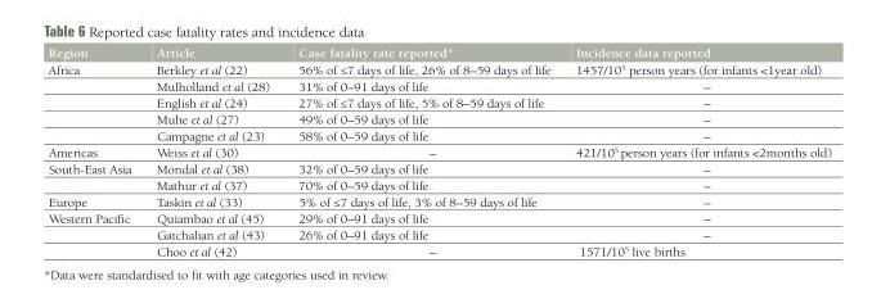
<table><thead><tr><td>Region</td><td>Article</td><td>Case fatality rate reported*</td><td>Incidence data reported</td></tr></thead><tbody><tr><td rowspan="5">Africa</td><td>Berkley et al (22)</td><td>56% of ≤7 days of life, 26% of 8–59 days of life</td><td>1457/10<sup>5</sup> person years (for infants &lt;1year old)</td></tr><tr><td>Mulholland et al (28)</td><td>31% of 0–91 days of life</td><td>–</td></tr><tr><td>English et al (24)</td><td>27% of ≤7 days of life, 5% of 8–59 days of life</td><td>–</td></tr><tr><td>Muhe et al (27)</td><td>49% of 0–59 days of life</td><td>–</td></tr><tr><td>Campagne et al (23)</td><td>58% of 0–59 days of life</td><td>–</td></tr><tr><td>Americas</td><td>Weiss et al (30)</td><td>–</td><td>421/10<sup>5</sup> person years (for infants &lt;2months old)</td></tr><tr><td rowspan="2">South-East Asia</td><td>Mondal et al (38)</td><td>32% of 0–59 days of life</td><td>–</td></tr><tr><td>Mathur et al (37)</td><td>70% of 0–59 days of life</td><td>–</td></tr><tr><td>Europe</td><td>Taskin et al (33)</td><td>5% of ≤7 days of life, 3% of 8–59 days of life</td><td>–</td></tr><tr><td rowspan="3">Western Pacific</td><td>Quiambao et al (45)</td><td>29% of 0–91 days of life</td><td>–</td></tr><tr><td>Gatchalian et al (43)</td><td>26% of 0–91 days of life</td><td>–</td></tr><tr><td>Choo et al (42)</td><td>–</td><td>1571/10<sup>5</sup> live births</td></tr></tbody></table>